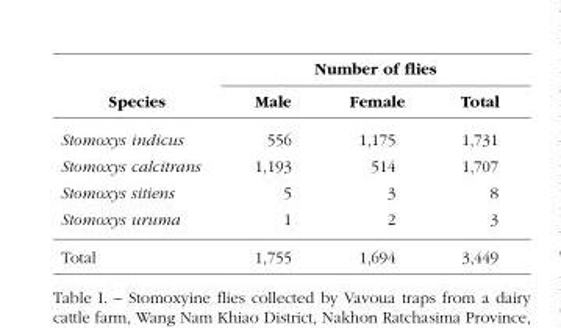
<table><thead><tr><td rowspan="2">Species</td><td colspan="3">Number of flies</td></tr><tr><td>Male</td><td>Female</td><td>Total</td></tr></thead><tbody><tr><td>Stomoxys indicus</td><td>556</td><td>1,175</td><td>1,731</td></tr><tr><td>Stomoxys calcitrans</td><td>1,193</td><td>514</td><td>1,707</td></tr><tr><td>Stomoxys sitiens</td><td>5</td><td>3</td><td>8</td></tr><tr><td>Stomoxys uruma</td><td>1</td><td>2</td><td>3</td></tr><tr><td>Total</td><td>1,755</td><td>1,694</td><td>3,449</td></tr></tbody></table>